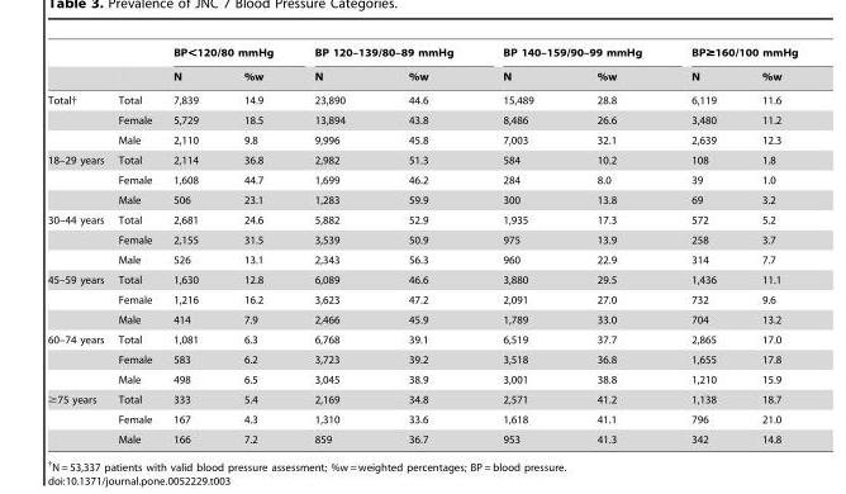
<table><thead><tr><td rowspan="2"></td><td rowspan="2"></td><td colspan="2">BP&lt;120/80 mmHg</td><td colspan="2">BP 120–139/80–89 mmHg</td><td colspan="2">BP 140–159/90–99 mmHg</td><td colspan="2">BP≥160/100 mmHg</td></tr><tr><td>N</td><td>%w</td><td>N</td><td>%w</td><td>N</td><td>%w</td><td>N</td><td>%w</td></tr></thead><tbody><tr><td rowspan="3">Total†</td><td>Total</td><td>7,839</td><td>14.9</td><td>23,890</td><td>44.6</td><td>15,489</td><td>28.8</td><td>6,119</td><td>11.6</td></tr><tr><td>Female</td><td>5,729</td><td>18.5</td><td>13,894</td><td>43.8</td><td>8,486</td><td>26.6</td><td>3,480</td><td>11.2</td></tr><tr><td>Male</td><td>2,110</td><td>9.8</td><td>9,996</td><td>45.8</td><td>7,003</td><td>32.1</td><td>2,639</td><td>12.3</td></tr><tr><td rowspan="3">18–29 years</td><td>Total</td><td>2,114</td><td>36.8</td><td>2,982</td><td>51.3</td><td>584</td><td>10.2</td><td>108</td><td>1.8</td></tr><tr><td>Female</td><td>1,608</td><td>44.7</td><td>1,699</td><td>46.2</td><td>284</td><td>8.0</td><td>39</td><td>1.0</td></tr><tr><td>Male</td><td>506</td><td>23.1</td><td>1,283</td><td>59.9</td><td>300</td><td>13.8</td><td>69</td><td>3.2</td></tr><tr><td rowspan="3">30–44 years</td><td>Total</td><td>2,681</td><td>24.6</td><td>5,882</td><td>52.9</td><td>1,935</td><td>17.3</td><td>572</td><td>5.2</td></tr><tr><td>Female</td><td>2,155</td><td>31.5</td><td>3,539</td><td>50.9</td><td>975</td><td>13.9</td><td>258</td><td>3.7</td></tr><tr><td>Male</td><td>526</td><td>13.1</td><td>2,343</td><td>56.3</td><td>960</td><td>22.9</td><td>314</td><td>7.7</td></tr><tr><td rowspan="3">45–59 years</td><td>Total</td><td>1,630</td><td>12.8</td><td>6,089</td><td>46.6</td><td>3,880</td><td>29.5</td><td>1,436</td><td>11.1</td></tr><tr><td>Female</td><td>1,216</td><td>16.2</td><td>3,623</td><td>47.2</td><td>2,091</td><td>27.0</td><td>732</td><td>9.6</td></tr><tr><td>Male</td><td>414</td><td>7.9</td><td>2,466</td><td>45.9</td><td>1,789</td><td>33.0</td><td>704</td><td>13.2</td></tr><tr><td rowspan="3">60–74 years</td><td>Total</td><td>1,081</td><td>6.3</td><td>6,768</td><td>39.1</td><td>6,519</td><td>37.7</td><td>2,865</td><td>17.0</td></tr><tr><td>Female</td><td>583</td><td>6.2</td><td>3,723</td><td>39.2</td><td>3,518</td><td>36.8</td><td>1,655</td><td>17.8</td></tr><tr><td>Male</td><td>498</td><td>6.5</td><td>3,045</td><td>38.9</td><td>3,001</td><td>38.8</td><td>1,210</td><td>15.9</td></tr><tr><td rowspan="3">≥75 years</td><td>Total</td><td>333</td><td>5.4</td><td>2,169</td><td>34.8</td><td>2,571</td><td>41.2</td><td>1,138</td><td>18.7</td></tr><tr><td>Female</td><td>167</td><td>4.3</td><td>1,310</td><td>33.6</td><td>1,618</td><td>41.1</td><td>796</td><td>21.0</td></tr><tr><td>Male</td><td>166</td><td>7.2</td><td>859</td><td>36.7</td><td>953</td><td>41.3</td><td>342</td><td>14.8</td></tr></tbody></table>